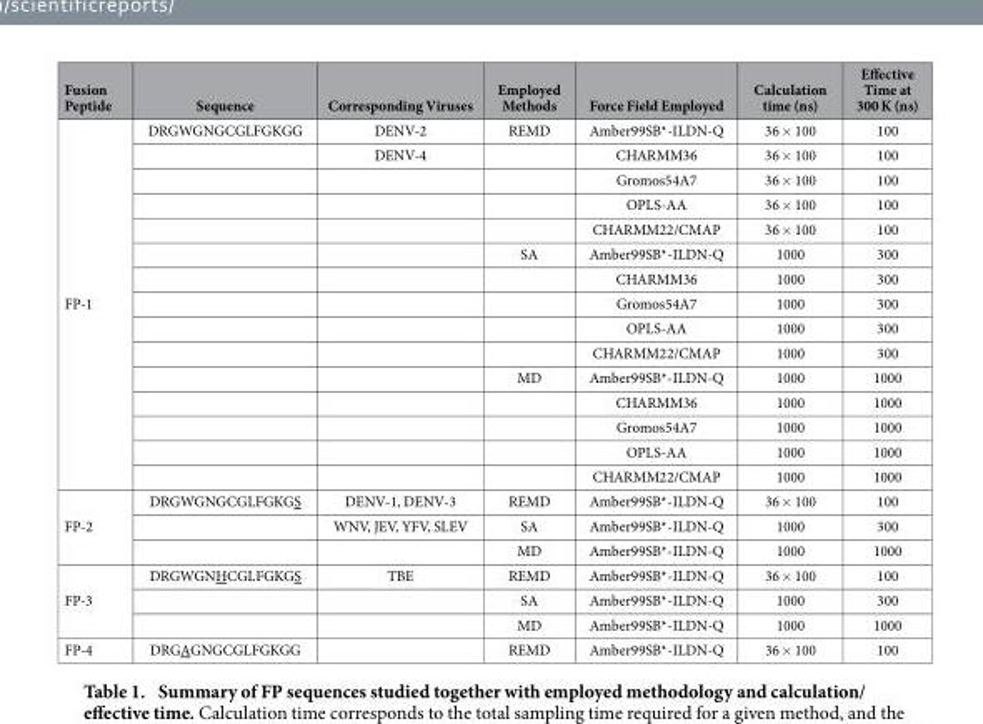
<table><thead><tr><td>Fusion Peptide</td><td>Sequence</td><td>Corresponding Viruses</td><td>Employed Methods</td><td>Force Field Employed</td><td>Calculation time (ns)</td><td>Effective Time at 300 K (ns)</td></tr></thead><tbody><tr><td rowspan="15">FP-1</td><td>DRGWGNGCGLFGKGG</td><td>DENV-2</td><td>REMD</td><td>Amber99SB*-ILDN-Q</td><td>36 × 100</td><td>100</td></tr><tr><td></td><td>DENV-4</td><td></td><td>CHARMM36</td><td>36 × 100</td><td>100</td></tr><tr><td></td><td></td><td></td><td>Gromos54A7</td><td>36 × 100</td><td>100</td></tr><tr><td></td><td></td><td></td><td>OPLS-AA</td><td>36 × 100</td><td>100</td></tr><tr><td></td><td></td><td></td><td>CHARMM22/CMAP</td><td>36 × 100</td><td>100</td></tr><tr><td></td><td></td><td>SA</td><td>Amber99SB*-ILDN-Q</td><td>1000</td><td>300</td></tr><tr><td></td><td></td><td></td><td>CHARMM36</td><td>1000</td><td>300</td></tr><tr><td></td><td></td><td></td><td>Gromos54A7</td><td>1000</td><td>300</td></tr><tr><td></td><td></td><td></td><td>OPLS-AA</td><td>1000</td><td>300</td></tr><tr><td></td><td></td><td></td><td>CHARMM22/CMAP</td><td>1000</td><td>300</td></tr><tr><td></td><td></td><td>MD</td><td>Amber99SB*-ILDN-Q</td><td>1000</td><td>1000</td></tr><tr><td></td><td></td><td></td><td>CHARMM36</td><td>1000</td><td>1000</td></tr><tr><td></td><td></td><td></td><td>Gromos54A7</td><td>1000</td><td>1000</td></tr><tr><td></td><td></td><td></td><td>OPLS-AA</td><td>1000</td><td>1000</td></tr><tr><td></td><td></td><td></td><td>CHARMM22/CMAP</td><td>1000</td><td>1000</td></tr><tr><td rowspan="3">FP-2</td><td>DRGWGNGCGLFGKGS</td><td>DENV-1, DENV-3</td><td>REMD</td><td>Amber99SB*-ILDN-Q</td><td>36 × 100</td><td>100</td></tr><tr><td></td><td>WNV, JEV, YFV, SLEV</td><td>SA</td><td>Amber99SB*-ILDN-Q</td><td>1000</td><td>300</td></tr><tr><td></td><td></td><td>MD</td><td>Amber99SB*-ILDN-Q</td><td>1000</td><td>1000</td></tr><tr><td rowspan="3">FP-3</td><td>DRGWGNHCGLFGKGS</td><td>TBE</td><td>REMD</td><td>Amber99SB*-ILDN-Q</td><td>36 × 100</td><td>100</td></tr><tr><td></td><td></td><td>SA</td><td>Amber99SB*-ILDN-Q</td><td>1000</td><td>300</td></tr><tr><td></td><td></td><td>MD</td><td>Amber99SB*-ILDN-Q</td><td>1000</td><td>1000</td></tr><tr><td>FP-4</td><td>DRGAGNGCGLFGKGG</td><td></td><td>REMD</td><td>Amber99SB*-ILDN-Q</td><td>36 × 100</td><td>100</td></tr></tbody></table>